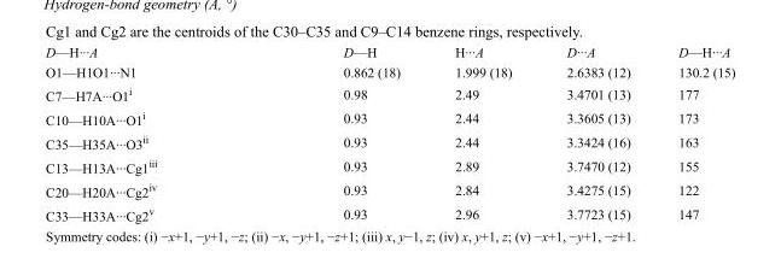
<table><tbody><tr><td>D—H···A</td><td>D—H</td><td>H···A</td><td>D···A</td><td>D—H···A</td></tr><tr><td>O1—H1O1···N1</td><td>0.862 (18)</td><td>1.999 (18)</td><td>2.6383 (12)</td><td>130.2 (15)</td></tr><tr><td>C7—H7A···O1<sup>i</sup></td><td>0.98</td><td>2.49</td><td>3.4701 (13)</td><td>177</td></tr><tr><td>C10—H10A···O1<sup>i</sup></td><td>0.93</td><td>2.44</td><td>3.3605 (13)</td><td>173</td></tr><tr><td>C35—H35A···O3<sup>ii</sup></td><td>0.93</td><td>2.44</td><td>3.3424 (16)</td><td>163</td></tr><tr><td>C13—H13A···Cg1<sup>iii</sup></td><td>0.93</td><td>2.89</td><td>3.7470 (12)</td><td>155</td></tr><tr><td>C20—H20A···Cg2<sup>iv</sup></td><td>0.93</td><td>2.84</td><td>3.4275 (15)</td><td>122</td></tr><tr><td>C33—H33A···Cg2<sup>v</sup></td><td>0.93</td><td>2.96</td><td>3.7723 (15)</td><td>147</td></tr></tbody></table>